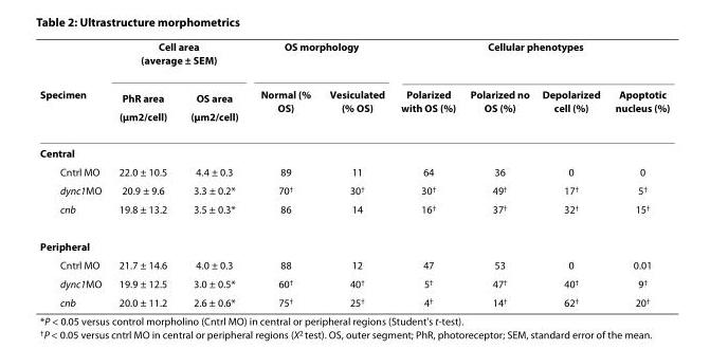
<table><thead><tr><td rowspan="2">Specimen</td><td colspan="2">Cell area (average ± SEM)</td><td colspan="2">OS morphology</td><td colspan="4">Cellular phenotypes</td></tr><tr><td>PhR area (μm<sup>2</sup>/cell)</td><td>OS area (μm<sup>2</sup>/cell)</td><td>Normal (% OS)</td><td>Vesiculated (% OS)</td><td>Polarized with OS (%)</td><td>Polarized no OS (%)</td><td>Depolarized cell (%)</td><td>Apoptotic nucleus (%)</td></tr></thead><tbody><tr><td colspan="9">Central</td></tr><tr><td>Cntrl MO</td><td>22.0 ± 10.5</td><td>4.4 ± 0.3</td><td>89</td><td>11</td><td>64</td><td>36</td><td>0</td><td>0</td></tr><tr><td>dync1MO</td><td>20.9 ± 9.6</td><td>3.3 ± 0.2*</td><td>70<sup>†</sup></td><td>30<sup>†</sup></td><td>30<sup>†</sup></td><td>49<sup>†</sup></td><td>17<sup>†</sup></td><td>5<sup>†</sup></td></tr><tr><td>cnb</td><td>19.8 ± 13.2</td><td>3.5 ± 0.3*</td><td>86</td><td>14</td><td>16<sup>†</sup></td><td>37<sup>†</sup></td><td>32<sup>†</sup></td><td>15<sup>†</sup></td></tr><tr><td colspan="9">Peripheral</td></tr><tr><td>Cntrl MO</td><td>21.7 ± 14.6</td><td>4.0 ± 0.3</td><td>88</td><td>12</td><td>47</td><td>53</td><td>0</td><td>0.01</td></tr><tr><td>dync1MO</td><td>19.9 ± 12.5</td><td>3.0 ± 0.5*</td><td>60<sup>†</sup></td><td>40<sup>†</sup></td><td>5<sup>†</sup></td><td>47<sup>†</sup></td><td>40<sup>†</sup></td><td>9<sup>†</sup></td></tr><tr><td>cnb</td><td>20.0 ± 11.2</td><td>2.6 ± 0.6*</td><td>75<sup>†</sup></td><td>25<sup>†</sup></td><td>4<sup>†</sup></td><td>14<sup>†</sup></td><td>62<sup>†</sup></td><td>20<sup>†</sup></td></tr></tbody></table>